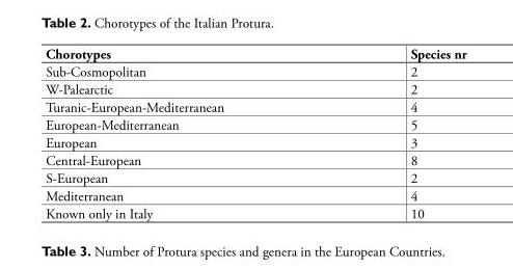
<table><tbody><tr><td>Chorotypes</td><td>Species nr</td></tr><tr><td>Sub-Cosmopolitan</td><td>2</td></tr><tr><td>W-Palearctic</td><td>2</td></tr><tr><td>Turanic-European-Mediterranean</td><td>4</td></tr><tr><td>European-Mediterranean</td><td>5</td></tr><tr><td>European</td><td>3</td></tr><tr><td>Central-European</td><td>8</td></tr><tr><td>S-European</td><td>2</td></tr><tr><td>Mediterranean</td><td>4</td></tr><tr><td>Known only in Italy</td><td>10</td></tr></tbody></table>